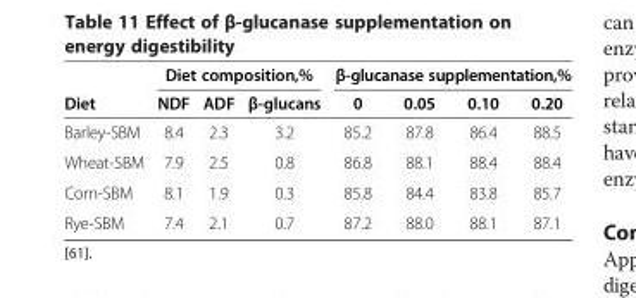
<table><thead><tr><td rowspan="2">Diet</td><td colspan="3">Diet composition,%</td><td colspan="4">β-glucanase supplementation,%</td></tr><tr><td>NDF</td><td>ADF</td><td>β-glucans</td><td>0</td><td>0.05</td><td>0.10</td><td>0.20</td></tr></thead><tbody><tr><td>Barley-SBM</td><td>8.4</td><td>2.3</td><td>3.2</td><td>85.2</td><td>87.8</td><td>86.4</td><td>88.5</td></tr><tr><td>Wheat-SBM</td><td>7.9</td><td>2.5</td><td>0.8</td><td>86.8</td><td>88.1</td><td>88.4</td><td>88.4</td></tr><tr><td>Corn-SBM</td><td>8.1</td><td>1.9</td><td>0.3</td><td>85.8</td><td>84.4</td><td>83.8</td><td>85.7</td></tr><tr><td>Rye-SBM</td><td>7.4</td><td>2.1</td><td>0.7</td><td>87.2</td><td>88.0</td><td>88.1</td><td>87.1</td></tr></tbody></table>